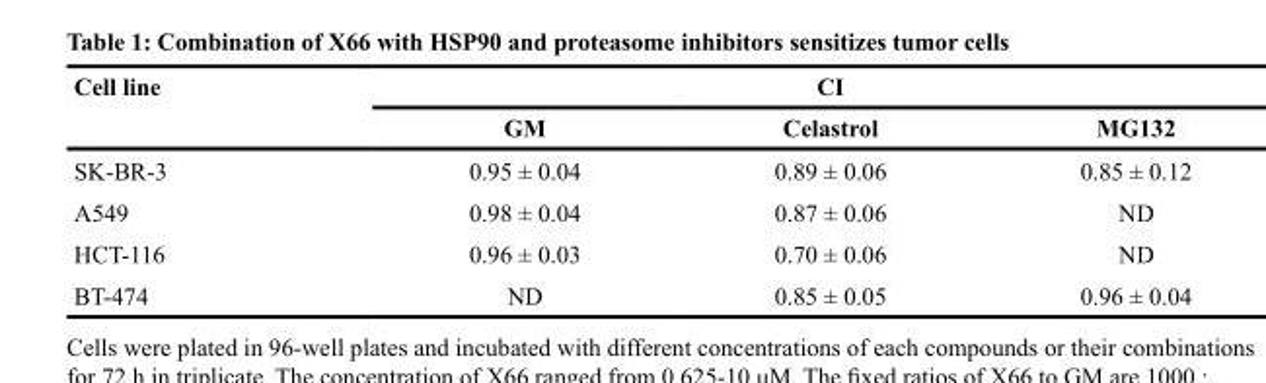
<table><thead><tr><td rowspan="2">Cell line</td><td colspan="3">CI</td></tr><tr><td>GM</td><td>Celastrol</td><td>MG132</td></tr></thead><tbody><tr><td>SK-BR-3</td><td>0.95 ± 0.04</td><td>0.89 ± 0.06</td><td>0.85 ± 0.12</td></tr><tr><td>A549</td><td>0.98 ± 0.04</td><td>0.87 ± 0.06</td><td>ND</td></tr><tr><td>HCT-116</td><td>0.96 ± 0.03</td><td>0.70 ± 0.06</td><td>ND</td></tr><tr><td>BT-474</td><td>ND</td><td>0.85 ± 0.05</td><td>0.96 ± 0.04</td></tr></tbody></table>